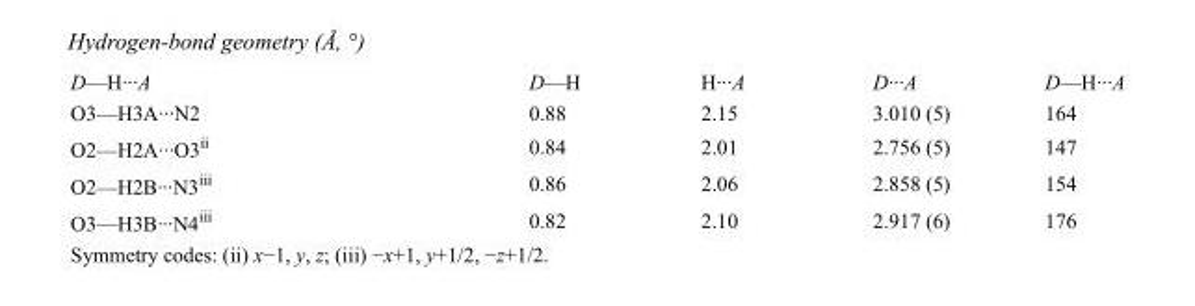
<table><tbody><tr><td>D—H···A</td><td>D—H</td><td>H···A</td><td>D···A</td><td>D—H···A</td></tr><tr><td>O3—H3A···N2</td><td>0.88</td><td>2.15</td><td>3.010 (5)</td><td>164</td></tr><tr><td>O2—H2A···O3<sup>ii</sup></td><td>0.84</td><td>2.01</td><td>2.756 (5)</td><td>147</td></tr><tr><td>O2—H2B···N3<sup>iii</sup></td><td>0.86</td><td>2.06</td><td>2.858 (5)</td><td>154</td></tr><tr><td>O3—H3B···N4<sup>iii</sup></td><td>0.82</td><td>2.10</td><td>2.917 (6)</td><td>176</td></tr></tbody></table>